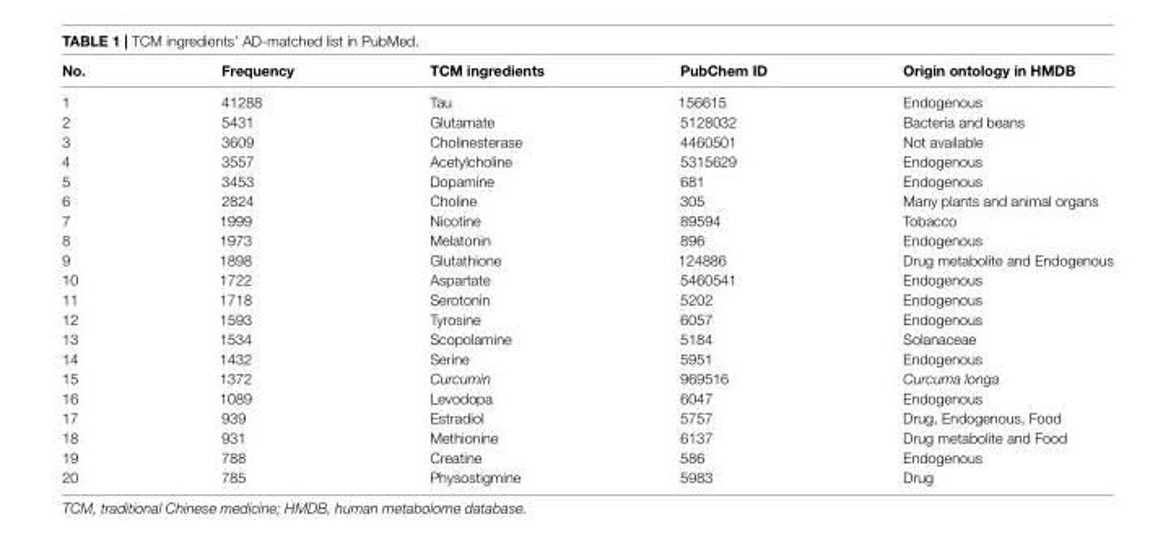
<table><thead><tr><td>No.</td><td>Frequency</td><td>TCM ingredients</td><td>PubChem ID</td><td>Origin ontology in HMDB</td></tr></thead><tbody><tr><td>1</td><td>41288</td><td>Tau</td><td>156615</td><td>Endogenous</td></tr><tr><td>2</td><td>5431</td><td>Glutamate</td><td>5128032</td><td>Bacteria and beans</td></tr><tr><td>3</td><td>3609</td><td>Cholinesterase</td><td>4460501</td><td>Not available</td></tr><tr><td>4</td><td>3557</td><td>Acetylcholine</td><td>5315629</td><td>Endogenous</td></tr><tr><td>5</td><td>3453</td><td>Dopamine</td><td>681</td><td>Endogenous</td></tr><tr><td>6</td><td>2824</td><td>Choline</td><td>305</td><td>Many plants and animal organs</td></tr><tr><td>7</td><td>1999</td><td>Nicotine</td><td>89594</td><td>Tobacco</td></tr><tr><td>8</td><td>1973</td><td>Melatonin</td><td>896</td><td>Endogenous</td></tr><tr><td>9</td><td>1898</td><td>Glutathione</td><td>124886</td><td>Drug metabolite and Endogenous</td></tr><tr><td>10</td><td>1722</td><td>Aspartate</td><td>5460541</td><td>Endogenous</td></tr><tr><td>11</td><td>1718</td><td>Serotonin</td><td>5202</td><td>Endogenous</td></tr><tr><td>12</td><td>1593</td><td>Tyrosine</td><td>6057</td><td>Endogenous</td></tr><tr><td>13</td><td>1534</td><td>Scopolamine</td><td>5184</td><td>Solanaceae</td></tr><tr><td>14</td><td>1432</td><td>Serine</td><td>5951</td><td>Endogenous</td></tr><tr><td>15</td><td>1372</td><td>Curcumin</td><td>969516</td><td>Curcuma longa</td></tr><tr><td>16</td><td>1089</td><td>Levodopa</td><td>6047</td><td>Endogenous</td></tr><tr><td>17</td><td>939</td><td>Estradiol</td><td>5757</td><td>Drug, Endogenous, Food</td></tr><tr><td>18</td><td>931</td><td>Methionine</td><td>6137</td><td>Drug metabolite and Food</td></tr><tr><td>19</td><td>788</td><td>Creatine</td><td>586</td><td>Endogenous</td></tr><tr><td>20</td><td>785</td><td>Physostigmine</td><td>5983</td><td>Drug</td></tr></tbody></table>